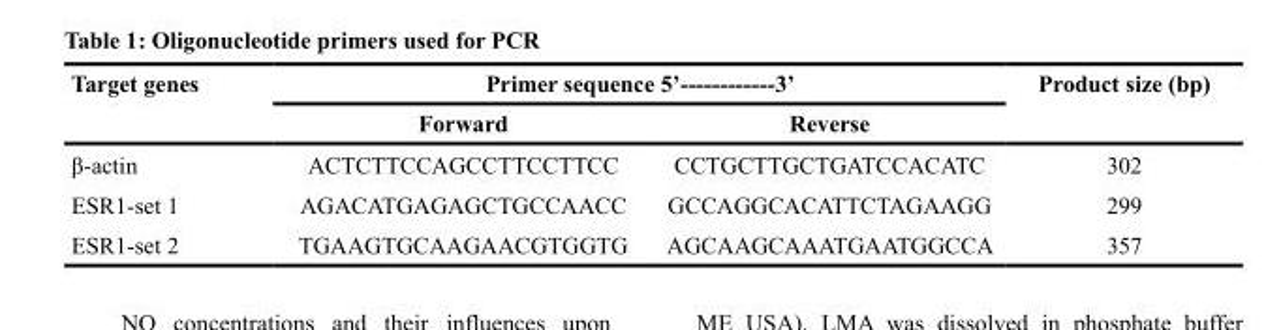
<table><thead><tr><td rowspan="2">Target genes</td><td colspan="2">Primer sequence 5’------------3’</td><td rowspan="2">Product size (bp)</td></tr><tr><td>Forward</td><td>Reverse</td></tr></thead><tbody><tr><td>β-actin</td><td>ACTCTTCCAGCCTTCCTTCC</td><td>CCTGCTTGCTGATCCACATC</td><td>302</td></tr><tr><td>ESR1-set 1</td><td>AGACATGAGAGCTGCCAACC</td><td>GCCAGGCACATTCTAGAAGG</td><td>299</td></tr><tr><td>ESR1-set 2</td><td>TGAAGTGCAAGAACGTGGTG</td><td>AGCAAGCAAATGAATGGCCA</td><td>357</td></tr></tbody></table>